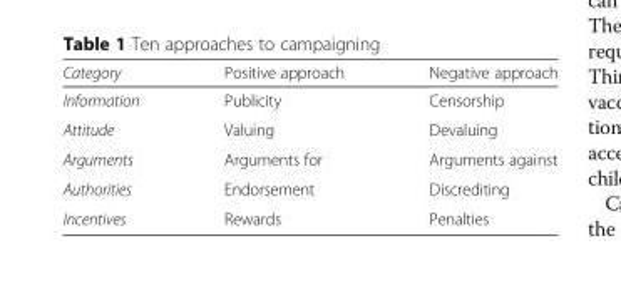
<table><thead><tr><td>Category</td><td>Positive approach</td><td>Negative approach</td></tr></thead><tbody><tr><td>Information</td><td>Publicity</td><td>Censorship</td></tr><tr><td>Attitude</td><td>Valuing</td><td>Devaluing</td></tr><tr><td>Arguments</td><td>Arguments for</td><td>Arguments against</td></tr><tr><td>Authorities</td><td>Endorsement</td><td>Discrediting</td></tr><tr><td>Incentives</td><td>Rewards</td><td>Penalties</td></tr></tbody></table>